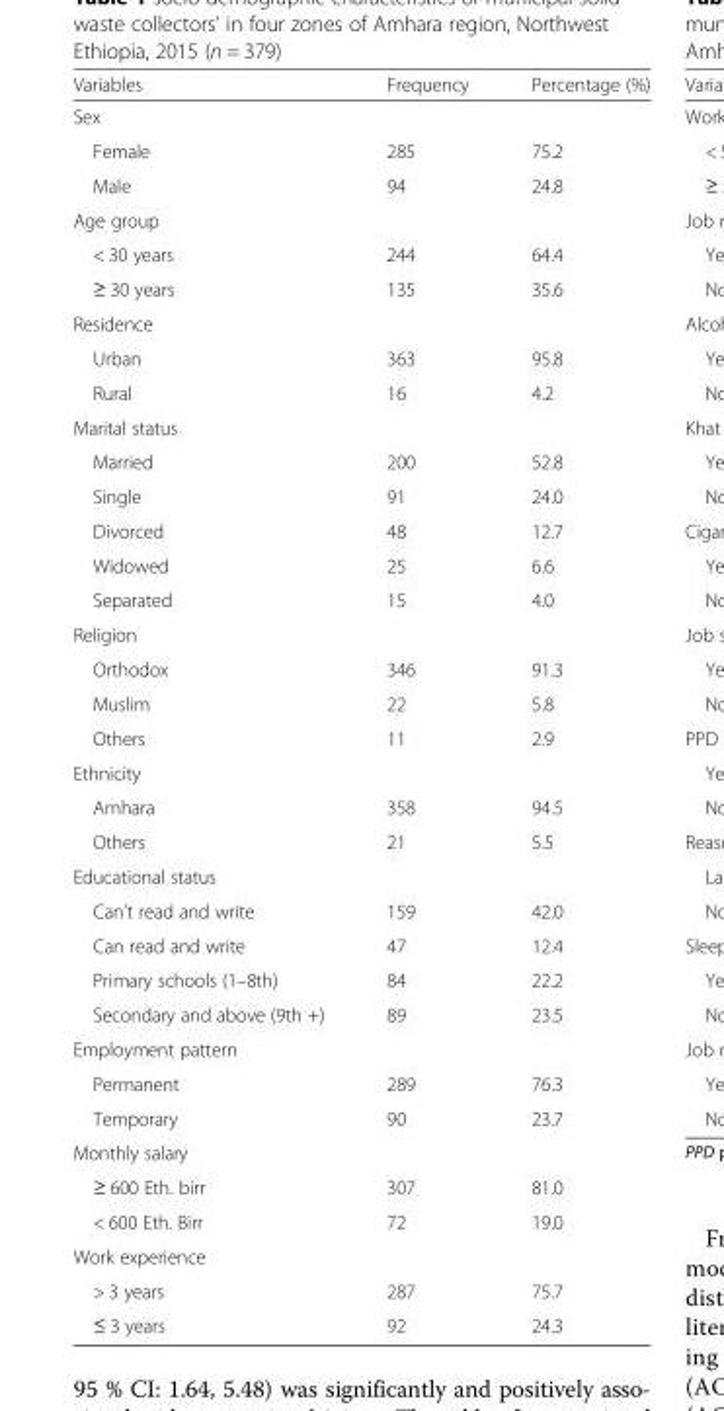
<table><thead><tr><td>Variables</td><td>Frequency</td><td>Percentage (%)</td></tr></thead><tbody><tr><td colspan="3">Sex</td></tr><tr><td>Female</td><td>285</td><td>75.2</td></tr><tr><td>Male</td><td>94</td><td>24.8</td></tr><tr><td colspan="3">Age group</td></tr><tr><td>&lt; 30 years</td><td>244</td><td>64.4</td></tr><tr><td>≥ 30 years</td><td>135</td><td>35.6</td></tr><tr><td colspan="3">Residence</td></tr><tr><td>Urban</td><td>363</td><td>95.8</td></tr><tr><td>Rural</td><td>16</td><td>4.2</td></tr><tr><td colspan="3">Marital status</td></tr><tr><td>Married</td><td>200</td><td>52.8</td></tr><tr><td>Single</td><td>91</td><td>24.0</td></tr><tr><td>Divorced</td><td>48</td><td>12.7</td></tr><tr><td>Widowed</td><td>25</td><td>6.6</td></tr><tr><td>Separated</td><td>15</td><td>4.0</td></tr><tr><td colspan="3">Religion</td></tr><tr><td>Orthodox</td><td>346</td><td>91.3</td></tr><tr><td>Muslim</td><td>22</td><td>5.8</td></tr><tr><td>Others</td><td>11</td><td>2.9</td></tr><tr><td colspan="3">Ethnicity</td></tr><tr><td>Amhara</td><td>358</td><td>94.5</td></tr><tr><td>Others</td><td>21</td><td>5.5</td></tr><tr><td colspan="3">Educational status</td></tr><tr><td>Can’t read and write</td><td>159</td><td>42.0</td></tr><tr><td>Can read and write</td><td>47</td><td>12.4</td></tr><tr><td>Primary schools (1–8th)</td><td>84</td><td>22.2</td></tr><tr><td>Secondary and above (9th +)</td><td>89</td><td>23.5</td></tr><tr><td colspan="3">Employment pattern</td></tr><tr><td>Permanent</td><td>289</td><td>76.3</td></tr><tr><td>Temporary</td><td>90</td><td>23.7</td></tr><tr><td colspan="3">Monthly salary</td></tr><tr><td>≥ 600 Eth. birr</td><td>307</td><td>81.0</td></tr><tr><td>&lt; 600 Eth. Birr</td><td>72</td><td>19.0</td></tr><tr><td colspan="3">Work experience</td></tr><tr><td>&gt; 3 years</td><td>287</td><td>75.7</td></tr><tr><td>≤ 3 years</td><td>92</td><td>24.3</td></tr></tbody></table>